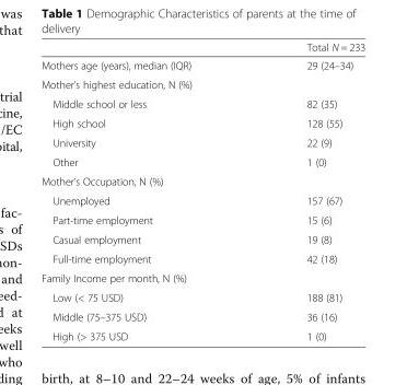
<table><thead><tr><td></td><td>Total N = 233</td></tr></thead><tbody><tr><td>Mothers age (years), median (IQR)</td><td>29 (24–34)</td></tr><tr><td colspan="2">Mother’s highest education, N (%)</td></tr><tr><td>Middle school or less</td><td>82 (35)</td></tr><tr><td>High school</td><td>128 (55)</td></tr><tr><td>University</td><td>22 (9)</td></tr><tr><td>Other</td><td>1 (0)</td></tr><tr><td colspan="2">Mother’s Occupation, N (%)</td></tr><tr><td>Unemployed</td><td>157 (67)</td></tr><tr><td>Part-time employment</td><td>15 (6)</td></tr><tr><td>Casual employment</td><td>19 (8)</td></tr><tr><td>Full-time employment</td><td>42 (18)</td></tr><tr><td colspan="2">Family Income per month, N (%)</td></tr><tr><td>Low (&lt; 75 USD)</td><td>188 (81)</td></tr><tr><td>Middle (75–375 USD)</td><td>36 (16)</td></tr><tr><td>High (&gt; 375 USD</td><td>1 (0)</td></tr></tbody></table>